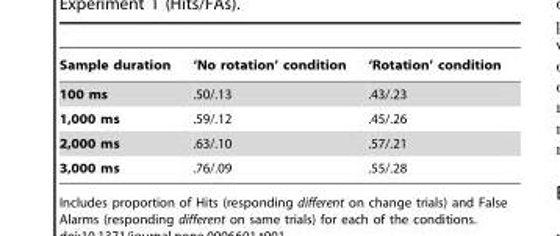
<table><thead><tr><td>Sample duration</td><td>‘No rotation’ condition</td><td>‘Rotation’ condition</td></tr></thead><tbody><tr><td>100 ms</td><td>.50/.13</td><td>.43/.23</td></tr><tr><td>1,000 ms</td><td>.59/.12</td><td>.45/.26</td></tr><tr><td>2,000 ms</td><td>.63/.10</td><td>.57/.21</td></tr><tr><td>3,000 ms</td><td>.76/.09</td><td>.55/.28</td></tr></tbody></table>